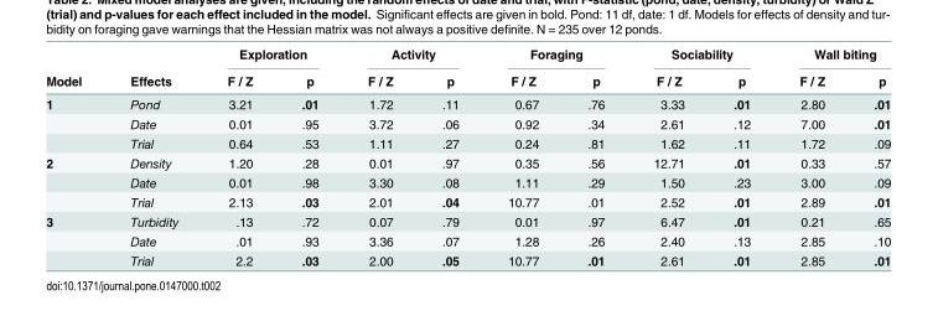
<table><thead><tr><td rowspan="2">Model</td><td rowspan="2">Effects</td><td colspan="2">Exploration</td><td colspan="2">Activity</td><td colspan="2">Foraging</td><td colspan="2">Sociability</td><td colspan="2">Wall biting</td></tr><tr><td>F / Z</td><td>p</td><td>F / Z</td><td>p</td><td>F / Z</td><td>p</td><td>F / Z</td><td>p</td><td>F / Z</td><td>p</td></tr></thead><tbody><tr><td rowspan="3">1</td><td>Pond</td><td>3.21</td><td>.01</td><td>1.72</td><td>.11</td><td>0.67</td><td>.76</td><td>3.33</td><td>.01</td><td>2.80</td><td>.01</td></tr><tr><td>Date</td><td>0.01</td><td>.95</td><td>3.72</td><td>.06</td><td>0.92</td><td>.34</td><td>2.61</td><td>.12</td><td>7.00</td><td>.01</td></tr><tr><td>Trial</td><td>0.64</td><td>.53</td><td>1.11</td><td>.27</td><td>0.24</td><td>.81</td><td>1.62</td><td>.11</td><td>1.72</td><td>.09</td></tr><tr><td rowspan="3">2</td><td>Density</td><td>1.20</td><td>.28</td><td>0.01</td><td>.97</td><td>0.35</td><td>.56</td><td>12.71</td><td>.01</td><td>0.33</td><td>.57</td></tr><tr><td>Date</td><td>0.01</td><td>.98</td><td>3.30</td><td>.08</td><td>1.11</td><td>.29</td><td>1.50</td><td>.23</td><td>3.00</td><td>.09</td></tr><tr><td>Trial</td><td>2.13</td><td>.03</td><td>2.01</td><td>.04</td><td>10.77</td><td>.01</td><td>2.52</td><td>.01</td><td>2.89</td><td>.01</td></tr><tr><td rowspan="3">3</td><td>Turbidity</td><td>.13</td><td>.72</td><td>0.07</td><td>.79</td><td>0.01</td><td>.97</td><td>6.47</td><td>.01</td><td>0.21</td><td>.65</td></tr><tr><td>Date</td><td>.01</td><td>.93</td><td>3.36</td><td>.07</td><td>1.28</td><td>.26</td><td>2.40</td><td>.13</td><td>2.85</td><td>.10</td></tr><tr><td>Trial</td><td>2.2</td><td>.03</td><td>2.00</td><td>.05</td><td>10.77</td><td>.01</td><td>2.61</td><td>.01</td><td>2.85</td><td>.01</td></tr></tbody></table>